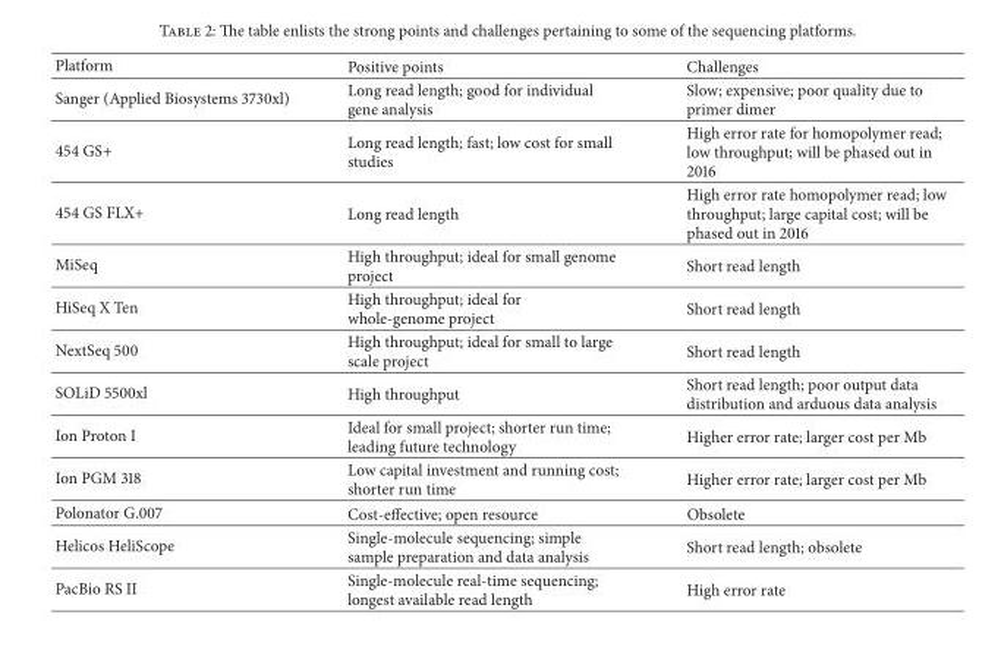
<table><thead><tr><td>Platform</td><td>Positive points</td><td>Challenges</td></tr></thead><tbody><tr><td>Sanger (Applied Biosystems 3730xl)</td><td>Long read length; good for individual gene analysis</td><td>Slow; expensive; poor quality due to primer dimer</td></tr><tr><td>454 GS+</td><td>Long read length; fast; low cost for small studies</td><td>High error rate for homopolymer read; low throughput; will be phased out in 2016</td></tr><tr><td>454 GS FLX+</td><td>Long read length</td><td>High error rate homopolymer read; low throughput; large capital cost; will be phased out in 2016</td></tr><tr><td>MiSeq</td><td>High throughput; ideal for small genome project</td><td>Short read length</td></tr><tr><td>HiSeq X Ten</td><td>High throughput; ideal for whole-genome project</td><td>Short read length</td></tr><tr><td>NextSeq 500</td><td>High throughput; ideal for small to large scale project</td><td>Short read length</td></tr><tr><td>SOLiD 5500xl</td><td>High throughput</td><td>Short read length; poor output data distribution and arduous data analysis</td></tr><tr><td>Ion Proton I</td><td>Ideal for small project; shorter run time; leading future technology</td><td>Higher error rate; larger cost per Mb</td></tr><tr><td>Ion PGM 318</td><td>Low capital investment and running cost; shorter run time</td><td>Higher error rate; larger cost per Mb</td></tr><tr><td>Polonator G.007</td><td>Cost-effective; open resource</td><td>Obsolete</td></tr><tr><td>Helicos HeliScope</td><td>Single-molecule sequencing; simple sample preparation and data analysis</td><td>Short read length; obsolete</td></tr><tr><td>PacBio RS II</td><td>Single-molecule real-time sequencing; longest available read length</td><td>High error rate</td></tr></tbody></table>